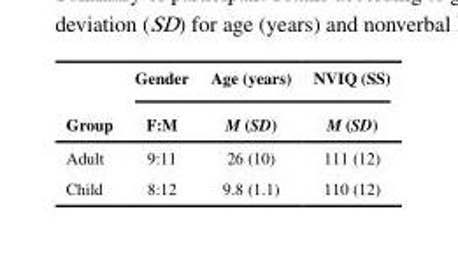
<table><thead><tr><td rowspan="2">Group</td><td rowspan="2">Gender F:M</td><td rowspan="2">Age (years) M (SD)</td><td rowspan="2">NVIQ (SS) M (SD)</td></tr><tr></tr></thead><tbody><tr><td>Adult</td><td>9:11</td><td>26 (10)</td><td>111 (12)</td></tr><tr><td>Child</td><td>8:12</td><td>9.8 (1.1)</td><td>110 (12)</td></tr></tbody></table>